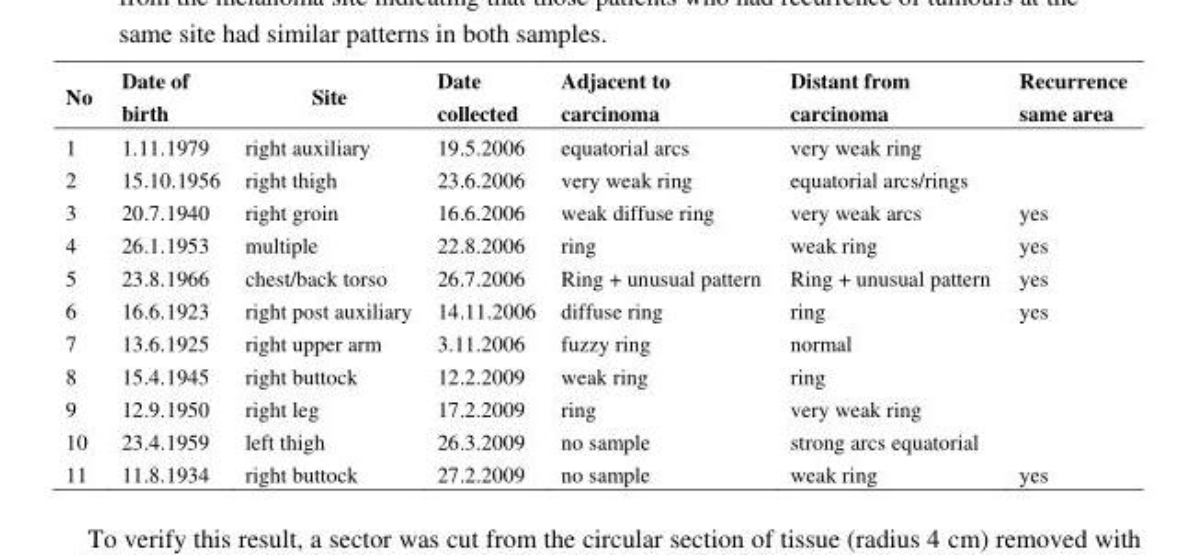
<table><thead><tr><td>No</td><td>Date of birth</td><td>Site</td><td>Date collected</td><td>Adjacent to carcinoma</td><td>Distant from carcinoma</td><td>Recurrence same area</td></tr></thead><tbody><tr><td>1</td><td>1.11.1979</td><td>right auxiliary</td><td>19.5.2006</td><td>equatorial arcs</td><td>very weak ring</td><td></td></tr><tr><td>2</td><td>15.10.1956</td><td>right thigh</td><td>23.6.2006</td><td>very weak ring</td><td>equatorial arcs/rings</td><td></td></tr><tr><td>3</td><td>20.7.1940</td><td>right groin</td><td>16.6.2006</td><td>weak diffuse ring</td><td>very weak arcs</td><td>yes</td></tr><tr><td>4</td><td>26.1.1953</td><td>multiple</td><td>22.8.2006</td><td>ring</td><td>weak ring</td><td>yes</td></tr><tr><td>5</td><td>23.8.1966</td><td>chest/back torso</td><td>26.7.2006</td><td>Ring + unusual pattern</td><td>Ring + unusual pattern</td><td>yes</td></tr><tr><td>6</td><td>16.6.1923</td><td>right post auxiliary</td><td>14.11.2006</td><td>diffuse ring</td><td>ring</td><td>yes</td></tr><tr><td>7</td><td>13.6.1925</td><td>right upper arm</td><td>3.11.2006</td><td>fuzzy ring</td><td>normal</td><td></td></tr><tr><td>8</td><td>15.4.1945</td><td>right buttock</td><td>12.2.2009</td><td>weak ring</td><td>ring</td><td></td></tr><tr><td>9</td><td>12.9.1950</td><td>right leg</td><td>17.2.2009</td><td>ring</td><td>very weak ring</td><td></td></tr><tr><td>10</td><td>23.4.1959</td><td>left thigh</td><td>26.3.2009</td><td>no sample</td><td>strong arcs equatorial</td><td></td></tr><tr><td>11</td><td>11.8.1934</td><td>right buttock</td><td>27.2.2009</td><td>no sample</td><td>weak ring</td><td>yes</td></tr></tbody></table>